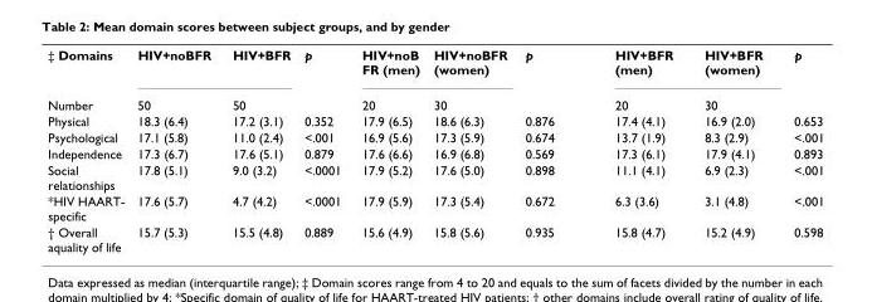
<table><tbody><tr><td>‡ Domains</td><td>HIV+noBFR</td><td>HIV+BFR</td><td>p</td><td>HIV+noB FR (men)</td><td>HIV+noBFR (women)</td><td>p</td><td>HIV+BFR (men)</td><td>HIV+BFR (women)</td><td>p</td></tr><tr><td>Number</td><td>50</td><td>50</td><td></td><td>20</td><td>30</td><td></td><td>20</td><td>30</td><td></td></tr><tr><td>Physical</td><td>18.3 (6.4)</td><td>17.2 (3.1)</td><td>0.352</td><td>17.9 (6.5)</td><td>18.6 (6.3)</td><td>0.876</td><td>17.4 (4.1)</td><td>16.9 (2.0)</td><td>0.653</td></tr><tr><td>Psychological</td><td>17.1 (5.8)</td><td>11.0 (2.4)</td><td>&lt;.001</td><td>16.9 (5.6)</td><td>17.3 (5.9)</td><td>0.674</td><td>13.7 (1.9)</td><td>8.3 (2.9)</td><td>&lt;.001</td></tr><tr><td>Independence</td><td>17.3 (6.7)</td><td>17.6 (5.1)</td><td>0.879</td><td>17.6 (6.6)</td><td>16.9 (6.8)</td><td>0.569</td><td>17.3 (6.1)</td><td>17.9 (4.1)</td><td>0.893</td></tr><tr><td>Social relationships</td><td>17.8 (5.1)</td><td>9.0 (3.2)</td><td>&lt;.0001</td><td>17.9 (5.2)</td><td>17.6 (5.0)</td><td>0.898</td><td>11.1 (4.1)</td><td>6.9 (2.3)</td><td>&lt;.001</td></tr><tr><td>*HIV HAART- specific</td><td>17.6 (5.7)</td><td>4.7 (4.2)</td><td>&lt;.0001</td><td>17.9 (5.9)</td><td>17.3 (5.4)</td><td>0.672</td><td>6.3 (3.6)</td><td>3.1 (4.8)</td><td>&lt;.001</td></tr><tr><td>† Overall aquality of life</td><td>15.7 (5.3)</td><td>15.5 (4.8)</td><td>0.889</td><td>15.6 (4.9)</td><td>15.8 (5.6)</td><td>0.935</td><td>15.8 (4.7)</td><td>15.2 (4.9)</td><td>0.598</td></tr></tbody></table>